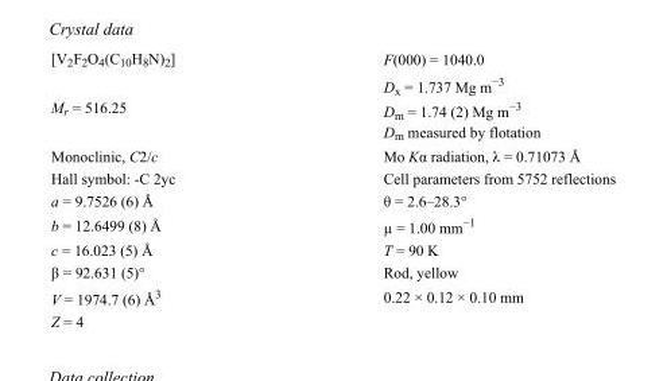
<table><tbody><tr><td>[V<sub>2</sub>F<sub>2</sub>O<sub>4</sub>(C<sub>10</sub>H<sub>8</sub>N)<sub>2</sub>]</td><td>F(000) = 1040.0</td></tr><tr><td>M<sub>r</sub> = 516.25</td><td>D<sub>x</sub> = 1.737 Mg m<sup>−3</sup> D<sub>m</sub> = 1.74 (2) Mg m<sup>−3</sup> D<sub>m</sub> measured by flotation</td></tr><tr><td>Monoclinic, C2/c</td><td>Mo Kα radiation, λ = 0.71073 Å</td></tr><tr><td>Hall symbol: -C 2yc</td><td>Cell parameters from 5752 reflections</td></tr><tr><td>a = 9.7526 (6) Å</td><td>θ = 2.6–28.3°</td></tr><tr><td>b = 12.6499 (8) Å</td><td>µ = 1.00 mm<sup>−1</sup></td></tr><tr><td>c = 16.023 (5) Å</td><td>T = 90 K</td></tr><tr><td>β = 92.631 (5)°</td><td>Rod, yellow</td></tr><tr><td>V = 1974.7 (6) Å<sup>3</sup></td><td>0.22 × 0.12 × 0.10 mm</td></tr><tr><td>Z = 4</td><td></td></tr></tbody></table>